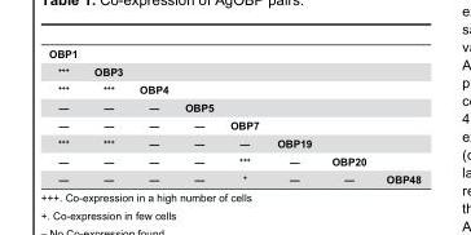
<table><thead><tr><td rowspan="8">OBP1 +++ +++ ― ― +++ ― ―</td><td rowspan="8">OBP3 +++ ― ― +++ ― ―</td><td rowspan="8">OBP4 ― ― ― ― ―</td><td rowspan="8">OBP5 ― ― ― ―</td><td rowspan="8">OBP7 ― +++ +</td><td rowspan="8">OBP19 ― ―</td><td rowspan="8">OBP20 ―</td><td rowspan="8">OBP48</td></tr><tr></tr><tr></tr><tr></tr><tr></tr><tr></tr><tr></tr><tr></tr></thead><tbody></tbody></table>